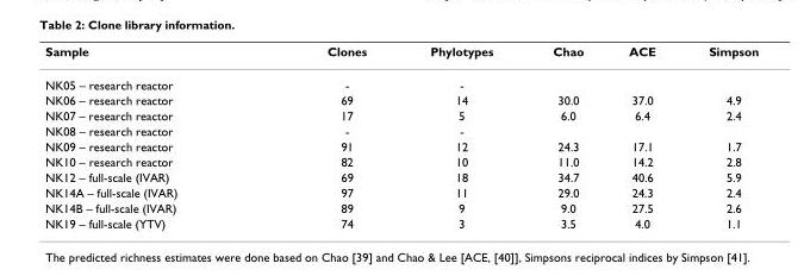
<table><thead><tr><td>Sample</td><td>Clones</td><td>Phylotypes</td><td>Chao</td><td>ACE</td><td>Simpson</td></tr></thead><tbody><tr><td>NK05 – research reactor</td><td>-</td><td>-</td><td></td><td></td><td></td></tr><tr><td>NK06 – research reactor</td><td>69</td><td>14</td><td>30.0</td><td>37.0</td><td>4.9</td></tr><tr><td>NK07 – research reactor</td><td>17</td><td>5</td><td>6.0</td><td>6.4</td><td>2.4</td></tr><tr><td>NK08 – research reactor</td><td>-</td><td>-</td><td></td><td></td><td></td></tr><tr><td>NK09 – research reactor</td><td>91</td><td>12</td><td>24.3</td><td>17.1</td><td>1.7</td></tr><tr><td>NK10 – research reactor</td><td>82</td><td>10</td><td>11.0</td><td>14.2</td><td>2.8</td></tr><tr><td>NK12 – full-scale (IVAR)</td><td>69</td><td>18</td><td>34.7</td><td>40.6</td><td>5.9</td></tr><tr><td>NK14A – full-scale (IVAR)</td><td>97</td><td>11</td><td>29.0</td><td>24.3</td><td>2.4</td></tr><tr><td>NK14B – full-scale (IVAR)</td><td>89</td><td>9</td><td>9.0</td><td>27.5</td><td>2.6</td></tr><tr><td>NK19 – full-scale (YTV)</td><td>74</td><td>3</td><td>3.5</td><td>4.0</td><td>1.1</td></tr></tbody></table>